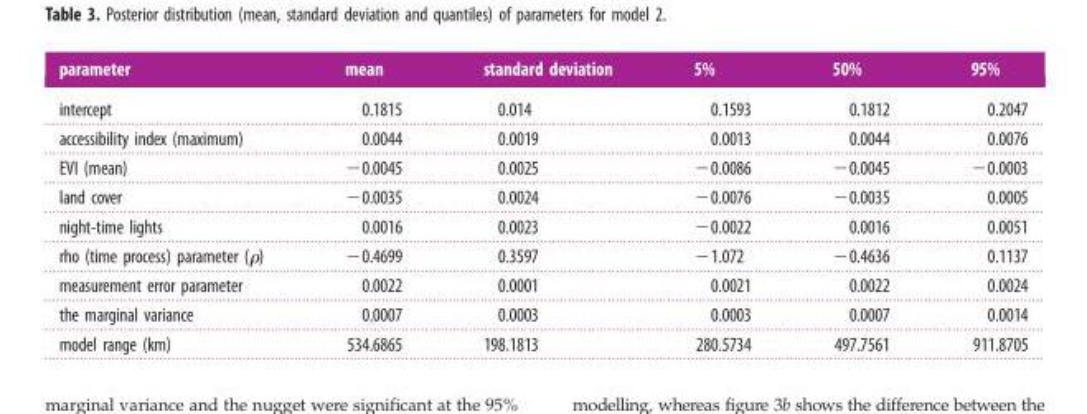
<table><thead><tr><td>parameter</td><td>mean</td><td>standard deviation</td><td>5%</td><td>50%</td><td>95%</td></tr></thead><tbody><tr><td>intercept</td><td>0.1815</td><td>0.014</td><td>0.1593</td><td>0.1812</td><td>0.2047</td></tr><tr><td>accessibility index (maximum)</td><td>0.0044</td><td>0.0019</td><td>0.0013</td><td>0.0044</td><td>0.0076</td></tr><tr><td>EVI (mean)</td><td>−0.0045</td><td>0.0025</td><td>−0.0086</td><td>−0.0045</td><td>−0.0003</td></tr><tr><td>land cover</td><td>−0.0035</td><td>0.0024</td><td>−0.0076</td><td>−0.0035</td><td>0.0005</td></tr><tr><td>night-time lights</td><td>0.0016</td><td>0.0023</td><td>−0.0022</td><td>0.0016</td><td>0.0051</td></tr><tr><td>rho (time process) parameter (ρ)</td><td>−0.4699</td><td>0.3597</td><td>−1.072</td><td>−0.4636</td><td>0.1137</td></tr><tr><td>measurement error parameter</td><td>0.0022</td><td>0.0001</td><td>0.0021</td><td>0.0022</td><td>0.0024</td></tr><tr><td>the marginal variance</td><td>0.0007</td><td>0.0003</td><td>0.0003</td><td>0.0007</td><td>0.0014</td></tr><tr><td>model range (km)</td><td>534.6865</td><td>198.1813</td><td>280.5734</td><td>497.7561</td><td>911.8705</td></tr></tbody></table>